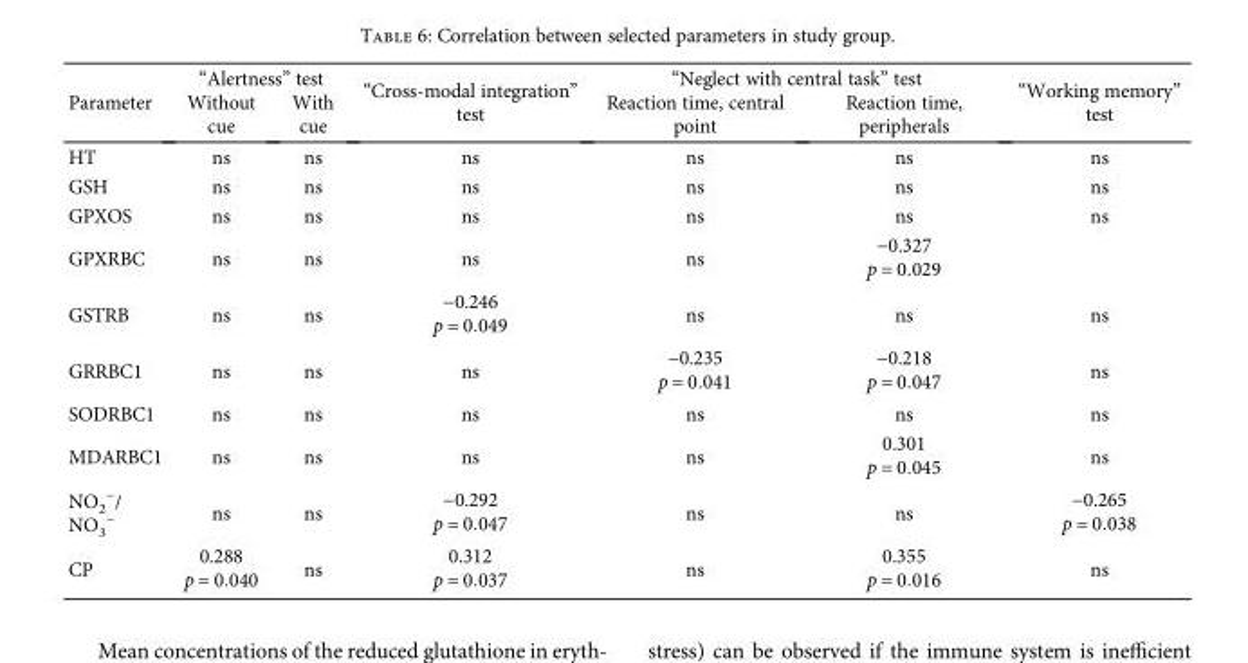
<table><thead><tr><td rowspan="2">Parameter</td><td colspan="2">“Alertness” test</td><td rowspan="2">“Cross-modal integration” test</td><td colspan="2">“Neglect with central task” test</td><td rowspan="2">“Working memory” test</td></tr><tr><td>Without cue</td><td>With cue</td><td>Reaction time, central point</td><td>Reaction time, peripherals</td></tr></thead><tbody><tr><td>HT</td><td>ns</td><td>ns</td><td>ns</td><td>ns</td><td>ns</td><td>ns</td></tr><tr><td>GSH</td><td>ns</td><td>ns</td><td>ns</td><td>ns</td><td>ns</td><td>ns</td></tr><tr><td>GPXOS</td><td>ns</td><td>ns</td><td>ns</td><td>ns</td><td>ns</td><td>ns</td></tr><tr><td>GPXRBC</td><td>ns</td><td>ns</td><td>ns</td><td>ns</td><td>−0.327 p = 0 029</td><td></td></tr><tr><td>GSTRB</td><td>ns</td><td>ns</td><td>−0.246 p = 0 049</td><td>ns</td><td>ns</td><td>ns</td></tr><tr><td>GRRBC1</td><td>ns</td><td>ns</td><td>ns</td><td>−0.235 p = 0 041</td><td>−0.218 p = 0 047</td><td>ns</td></tr><tr><td>SODRBC1</td><td>ns</td><td>ns</td><td>ns</td><td>ns</td><td>ns</td><td>ns</td></tr><tr><td>MDARBC1</td><td>ns</td><td>ns</td><td>ns</td><td>ns</td><td>0.301 p = 0 045</td><td>ns</td></tr><tr><td>NO<sub>2</sub> <sup>−</sup>/ NO<sub>3</sub> <sup>−</sup></td><td>ns</td><td>ns</td><td>−0.292 p = 0 047</td><td>ns</td><td>ns</td><td>−0.265 p = 0 038</td></tr><tr><td>CP</td><td>0.288 p = 0 040</td><td>ns</td><td>0.312 p = 0 037</td><td>ns</td><td>0.355 p = 0 016</td><td>ns</td></tr></tbody></table>